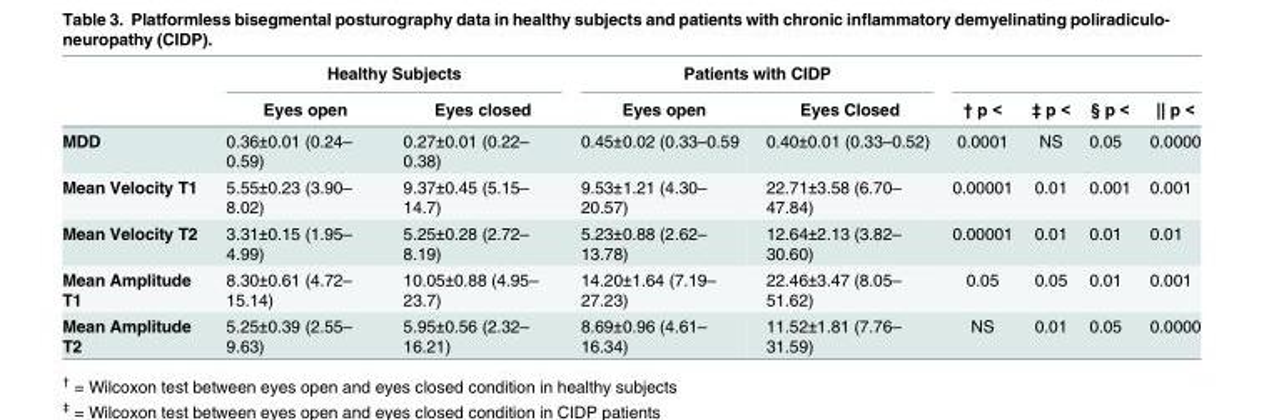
<table><thead><tr><td rowspan="2"></td><td colspan="2">Healthy Subjects</td><td colspan="2">Patients with CIDP</td><td rowspan="2">† p &lt;</td><td rowspan="2">‡ p &lt;</td><td rowspan="2">§ p &lt;</td><td rowspan="2">|| p &lt;</td></tr><tr><td>Eyes open</td><td>Eyes closed</td><td>Eyes open</td><td>Eyes Closed</td></tr></thead><tbody><tr><td>MDD</td><td>0.36±0.01 (0.24– 0.59)</td><td>0.27±0.01 (0.22– 0.38)</td><td>0.45±0.02 (0.33–0.59</td><td>0.40±0.01 (0.33–0.52)</td><td>0.0001</td><td>NS</td><td>0.05</td><td>0.0000</td></tr><tr><td>Mean Velocity T1</td><td>5.55±0.23 (3.90– 8.02)</td><td>9.37±0.45 (5.15– 14.7)</td><td>9.53±1.21 (4.30– 20.57)</td><td>22.71±3.58 (6.70– 47.84)</td><td>0.00001</td><td>0.01</td><td>0.001</td><td>0.001</td></tr><tr><td>Mean Velocity T2</td><td>3.31±0.15 (1.95– 4.99)</td><td>5.25±0.28 (2.72– 8.19)</td><td>5.23±0.88 (2.62– 13.78)</td><td>12.64±2.13 (3.82– 30.60)</td><td>0.00001</td><td>0.01</td><td>0.01</td><td>0.01</td></tr><tr><td>Mean Amplitude T1</td><td>8.30±0.61 (4.72– 15.14)</td><td>10.05±0.88 (4.95– 23.7)</td><td>14.20±1.64 (7.19– 27.23)</td><td>22.46±3.47 (8.05– 51.62)</td><td>0.05</td><td>0.05</td><td>0.01</td><td>0.001</td></tr><tr><td>Mean Amplitude T2</td><td>5.25±0.39 (2.55– 9.63)</td><td>5.95±0.56 (2.32– 16.21)</td><td>8.69±0.96 (4.61– 16.34)</td><td>11.52±1.81 (7.76– 31.59)</td><td>NS</td><td>0.01</td><td>0.05</td><td>0.0000</td></tr></tbody></table>